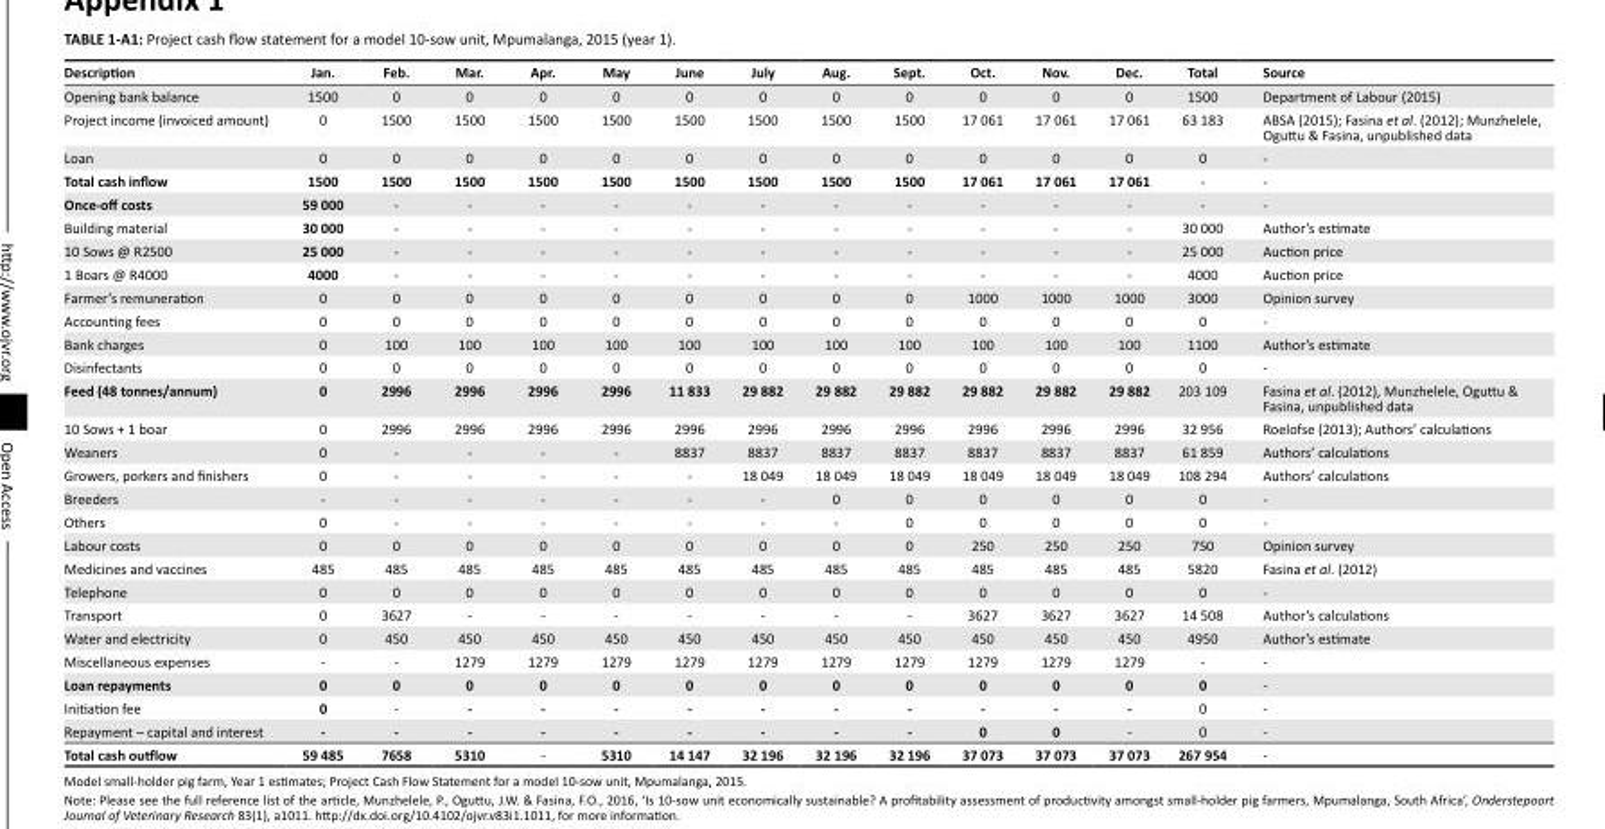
<table><thead><tr><td>Description</td><td>Jan.</td><td>Feb.</td><td>Mar.</td><td>Apr.</td><td>May</td><td>June</td><td>July</td><td>Aug.</td><td>Sept.</td><td>Oct.</td><td>Nov.</td><td>Dec.</td><td>Total</td><td>Source</td></tr></thead><tbody><tr><td>Opening bank balance</td><td>1500</td><td>0</td><td>0</td><td>0</td><td>0</td><td>0</td><td>0</td><td>0</td><td>0</td><td>0</td><td>0</td><td>0</td><td>1500</td><td>Department of Labour (2015)</td></tr><tr><td>Project income (invoiced amount)</td><td>0</td><td>1500</td><td>1500</td><td>1500</td><td>1500</td><td>1500</td><td>1500</td><td>1500</td><td>1500</td><td>17 061</td><td>17 061</td><td>17 061</td><td>63 183</td><td>ABSA (2015); Fasina et al. (2012); Munzhelele, Oguttu &amp; Fasina, unpublished data</td></tr><tr><td>Loan</td><td>0</td><td>0</td><td>0</td><td>0</td><td>0</td><td>0</td><td>0</td><td>0</td><td>0</td><td>0</td><td>0</td><td>0</td><td>0</td><td>-</td></tr><tr><td>Total cash inflow</td><td>1500</td><td>1500</td><td>1500</td><td>1500</td><td>1500</td><td>1500</td><td>1500</td><td>1500</td><td>1500</td><td>17 061</td><td>17 061</td><td>17 061</td><td>-</td><td>-</td></tr><tr><td>Once-off costs</td><td>59 000</td><td>-</td><td>-</td><td>-</td><td>-</td><td>-</td><td>-</td><td>-</td><td>-</td><td>-</td><td>-</td><td>-</td><td>-</td><td>-</td></tr><tr><td>Building material</td><td>30 000</td><td>-</td><td>-</td><td>-</td><td>-</td><td>-</td><td>-</td><td>-</td><td>-</td><td>-</td><td>-</td><td>-</td><td>30 000</td><td>Author’s estimate</td></tr><tr><td>10 Sows @ R2500</td><td>25 000</td><td>-</td><td>-</td><td>-</td><td>-</td><td>-</td><td>-</td><td>-</td><td>-</td><td>-</td><td>-</td><td>-</td><td>25 000</td><td>Auction price</td></tr><tr><td>1 Boars @ R4000</td><td>4000</td><td>-</td><td>-</td><td>-</td><td>-</td><td>-</td><td>-</td><td>-</td><td>-</td><td>-</td><td>-</td><td>-</td><td>4000</td><td>Auction price</td></tr><tr><td>Farmer’s remuneration</td><td>0</td><td>0</td><td>0</td><td>0</td><td>0</td><td>0</td><td>0</td><td>0</td><td>0</td><td>1000</td><td>1000</td><td>1000</td><td>3000</td><td>Opinion survey</td></tr><tr><td>Accounting fees</td><td>0</td><td>0</td><td>0</td><td>0</td><td>0</td><td>0</td><td>0</td><td>0</td><td>0</td><td>0</td><td>0</td><td>0</td><td>0</td><td>-</td></tr><tr><td>Bank charges</td><td>0</td><td>100</td><td>100</td><td>100</td><td>100</td><td>100</td><td>100</td><td>100</td><td>100</td><td>100</td><td>100</td><td>100</td><td>1100</td><td>Author’s estimate</td></tr><tr><td>Disinfectants</td><td>0</td><td>0</td><td>0</td><td>0</td><td>0</td><td>0</td><td>0</td><td>0</td><td>0</td><td>0</td><td>0</td><td>0</td><td>0</td><td>-</td></tr><tr><td>Feed (48 tonnes/annum)</td><td>0</td><td>2996</td><td>2996</td><td>2996</td><td>2996</td><td>11 833</td><td>29 882</td><td>29 882</td><td>29 882</td><td>29 882</td><td>29 882</td><td>29 882</td><td>203 109</td><td>Fasina et al. (2012), Munzhelele, Oguttu &amp; Fasina, unpublished data</td></tr><tr><td>10 Sows + 1 boar</td><td>0</td><td>2996</td><td>2996</td><td>2996</td><td>2996</td><td>2996</td><td>2996</td><td>2996</td><td>2996</td><td>2996</td><td>2996</td><td>2996</td><td>32 956</td><td>Roelofse (2013); Authors’ calculations</td></tr><tr><td>Weaners</td><td>0</td><td>-</td><td>-</td><td>-</td><td>-</td><td>8837</td><td>8837</td><td>8837</td><td>8837</td><td>8837</td><td>8837</td><td>8837</td><td>61 859</td><td>Authors’ calculations</td></tr><tr><td>Growers, porkers and finishers</td><td>0</td><td>-</td><td>-</td><td>-</td><td>-</td><td>-</td><td>18 049</td><td>18 049</td><td>18 049</td><td>18 049</td><td>18 049</td><td>18 049</td><td>108 294</td><td>Authors’ calculations</td></tr><tr><td>Breeders</td><td>-</td><td>-</td><td>-</td><td>-</td><td>-</td><td>-</td><td>-</td><td>0</td><td>0</td><td>0</td><td>0</td><td>0</td><td>0</td><td>-</td></tr><tr><td>Others</td><td>0</td><td>-</td><td>-</td><td>-</td><td>-</td><td>-</td><td>-</td><td>-</td><td>0</td><td>0</td><td>0</td><td>0</td><td>0</td><td>-</td></tr><tr><td>Labour costs</td><td>0</td><td>0</td><td>0</td><td>0</td><td>0</td><td>0</td><td>0</td><td>0</td><td>0</td><td>250</td><td>250</td><td>250</td><td>750</td><td>Opinion survey</td></tr><tr><td>Medicines and vaccines</td><td>485</td><td>485</td><td>485</td><td>485</td><td>485</td><td>485</td><td>485</td><td>485</td><td>485</td><td>485</td><td>485</td><td>485</td><td>5820</td><td>Fasina et al. (2012)</td></tr><tr><td>Telephone</td><td>0</td><td>0</td><td>0</td><td>0</td><td>0</td><td>0</td><td>0</td><td>0</td><td>0</td><td>0</td><td>0</td><td>0</td><td>0</td><td>-</td></tr><tr><td>Transport</td><td>0</td><td>3627</td><td>-</td><td>-</td><td>-</td><td>-</td><td>-</td><td>-</td><td>-</td><td>3627</td><td>3627</td><td>3627</td><td>14 508</td><td>Author’s calculations</td></tr><tr><td>Water and electricity</td><td>0</td><td>450</td><td>450</td><td>450</td><td>450</td><td>450</td><td>450</td><td>450</td><td>450</td><td>450</td><td>450</td><td>450</td><td>4950</td><td>Author’s estimate</td></tr><tr><td>Miscellaneous expenses</td><td>-</td><td>-</td><td>1279</td><td>1279</td><td>1279</td><td>1279</td><td>1279</td><td>1279</td><td>1279</td><td>1279</td><td>1279</td><td>1279</td><td>-</td><td>-</td></tr><tr><td>Loan repayments</td><td>0</td><td>0</td><td>0</td><td>0</td><td>0</td><td>0</td><td>0</td><td>0</td><td>0</td><td>0</td><td>0</td><td>0</td><td>0</td><td>-</td></tr><tr><td>Initiation fee</td><td>0</td><td>-</td><td>-</td><td>-</td><td>-</td><td>-</td><td>-</td><td>-</td><td>-</td><td>-</td><td>-</td><td>-</td><td>0</td><td>-</td></tr><tr><td>Repayment – capital and interest</td><td>-</td><td>-</td><td>-</td><td>-</td><td>-</td><td>-</td><td>-</td><td>-</td><td>-</td><td>0</td><td>0</td><td>-</td><td>0</td><td>-</td></tr><tr><td>Total cash outflow</td><td>59 485</td><td>7658</td><td>5310</td><td>-</td><td>5310</td><td>14 147</td><td>32 196</td><td>32 196</td><td>32 196</td><td>37 073</td><td>37 073</td><td>37 073</td><td>267 954</td><td>-</td></tr></tbody></table>